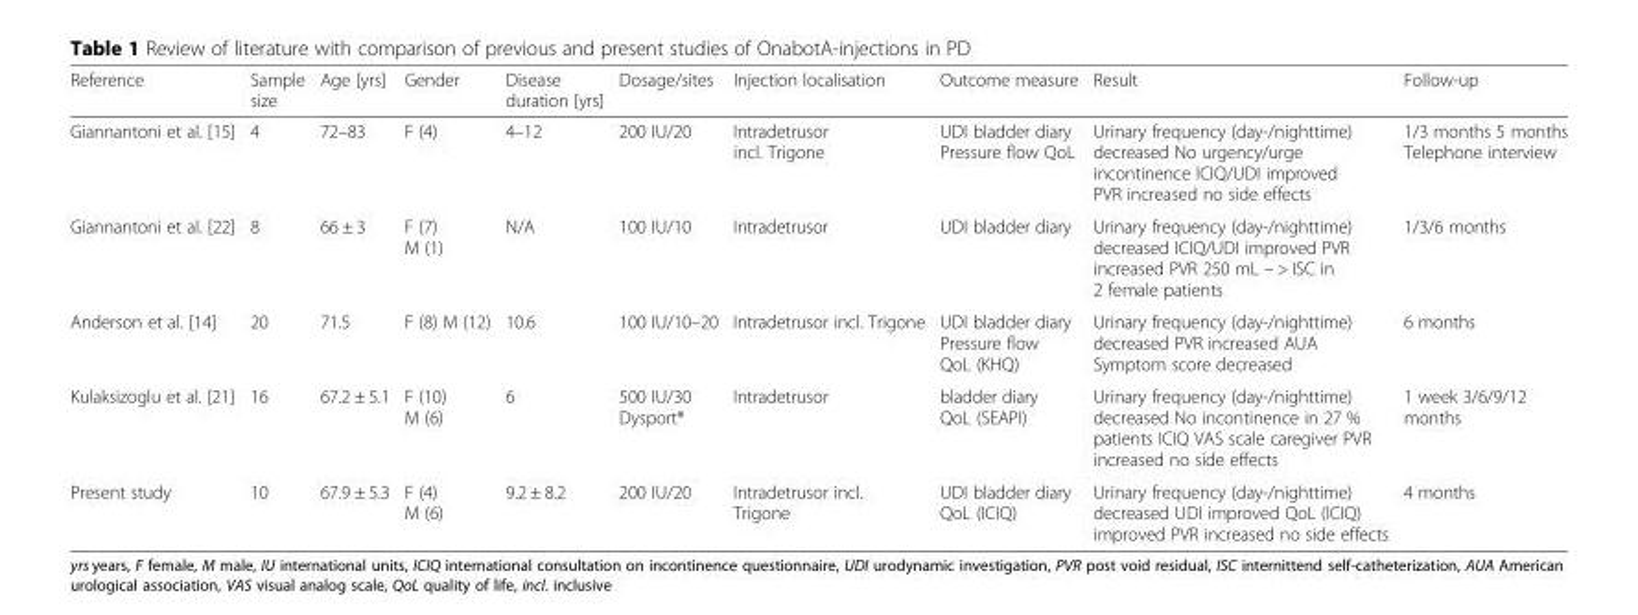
<table><thead><tr><td>Reference</td><td>Sample size</td><td>Age [yrs]</td><td>Gender</td><td>Disease duration [yrs]</td><td>Dosage/sites</td><td>Injection localisation</td><td>Outcome measure</td><td>Result</td><td>Follow-up</td></tr></thead><tbody><tr><td>Giannantoni et al. [15]</td><td>4</td><td>72–83</td><td>F (4)</td><td>4–12</td><td>200 IU/20</td><td>Intradetrusor incl. Trigone</td><td>UDI bladder diary Pressure flow QoL</td><td>Urinary frequency (day-/nighttime) decreased No urgency/urge incontinence ICIQ/UDI improved PVR increased no side effects</td><td>1/3 months 5 months Telephone interview</td></tr><tr><td>Giannantoni et al. [22]</td><td>8</td><td>66 ± 3</td><td>F (7) M (1)</td><td>N/A</td><td>100 IU/10</td><td>Intradetrusor</td><td>UDI bladder diary</td><td>Urinary frequency (day-/nighttime) decreased ICIQ/UDI improved PVR increased PVR 250 mL – &gt; ISC in 2 female patients</td><td>1/3/6 months</td></tr><tr><td>Anderson et al. [14]</td><td>20</td><td>71.5</td><td>F (8) M (12)</td><td>10.6</td><td>100 IU/10–20</td><td>Intradetrusor incl. Trigone</td><td>UDI bladder diary Pressure flow QoL (KHQ)</td><td>Urinary frequency (day-/nighttime) decreased PVR increased AUA Symptom score decreased</td><td>6 months</td></tr><tr><td>Kulaksizoglu et al. [21]</td><td>16</td><td>67.2 ± 5.1</td><td>F (10) M (6)</td><td>6</td><td>500 IU/30 Dysport®</td><td>Intradetrusor</td><td>bladder diary QoL (SEAPI)</td><td>Urinary frequency (day-/nighttime) decreased No incontinence in 27 % patients ICIQ VAS scale caregiver PVR increased no side effects</td><td>1 week 3/6/9/12 months</td></tr><tr><td>Present study</td><td>10</td><td>67.9 ± 5.3</td><td>F (4) M (6)</td><td>9.2 ± 8.2</td><td>200 IU/20</td><td>Intradetrusor incl. Trigone</td><td>UDI bladder diary QoL (ICIQ)</td><td>Urinary frequency (day-/nighttime) decreased UDI improved QoL (ICIQ) improved PVR increased no side effects</td><td>4 months</td></tr></tbody></table>